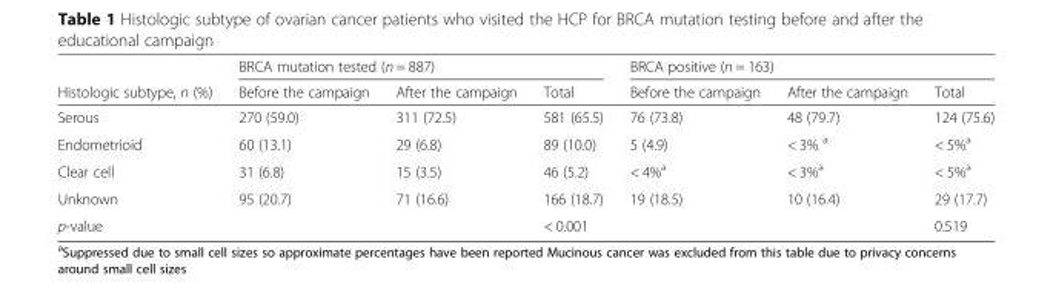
<table><thead><tr><td rowspan="2">Histologic subtype, n (%)</td><td colspan="3">BRCA mutation tested (n = 887)</td><td colspan="3">BRCA positive (n = 163)</td></tr><tr><td>Before the campaign</td><td>After the campaign</td><td>Total</td><td>Before the campaign</td><td>After the campaign</td><td>Total</td></tr></thead><tbody><tr><td>Serous</td><td>270 (59.0)</td><td>311 (72.5)</td><td>581 (65.5)</td><td>76 (73.8)</td><td>48 (79.7)</td><td>124 (75.6)</td></tr><tr><td>Endometrioid</td><td>60 (13.1)</td><td>29 (6.8)</td><td>89 (10.0)</td><td>5 (4.9)</td><td>&lt; 3% <sup>a</sup></td><td>&lt; 5%<sup>a</sup></td></tr><tr><td>Clear cell</td><td>31 (6.8)</td><td>15 (3.5)</td><td>46 (5.2)</td><td>&lt; 4%<sup>a</sup></td><td>&lt; 3%<sup>a</sup></td><td>&lt; 5%<sup>a</sup></td></tr><tr><td>Unknown</td><td>95 (20.7)</td><td>71 (16.6)</td><td>166 (18.7)</td><td>19 (18.5)</td><td>10 (16.4)</td><td>29 (17.7)</td></tr><tr><td>p-value</td><td></td><td></td><td>&lt; 0.001</td><td></td><td></td><td>0.519</td></tr></tbody></table>